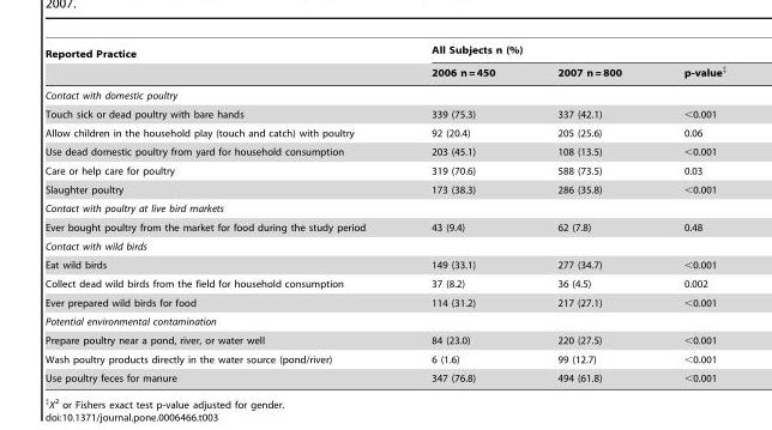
<table><thead><tr><td rowspan="2">Reported Practice</td><td colspan="3">All Subjects n (%)</td></tr><tr><td>2006 n = 450</td><td>2007 n = 800</td><td>p-value‡</td></tr></thead><tbody><tr><td colspan="4">Contact with domestic poultry</td></tr><tr><td>Touch sick or dead poultry with bare hands</td><td>339 (75.3)</td><td>337 (42.1)</td><td>&lt;0.001</td></tr><tr><td>Allow children in the household play (touch and catch) with poultry</td><td>92 (20.4)</td><td>205 (25.6)</td><td>0.06</td></tr><tr><td>Use dead domestic poultry from yard for household consumption</td><td>203 (45.1)</td><td>108 (13.5)</td><td>&lt;0.001</td></tr><tr><td>Care or help care for poultry</td><td>319 (70.6)</td><td>588 (73.5)</td><td>0.03</td></tr><tr><td>Slaughter poultry</td><td>173 (38.3)</td><td>286 (35.8)</td><td>&lt;0.001</td></tr><tr><td colspan="4">Contact with poultry at live bird markets</td></tr><tr><td>Ever bought poultry from the market for food during the study period</td><td>43 (9.4)</td><td>62 (7.8)</td><td>0.48</td></tr><tr><td colspan="4">Contact with wild birds</td></tr><tr><td>Eat wild birds</td><td>149 (33.1)</td><td>277 (34.7)</td><td>&lt;0.001</td></tr><tr><td>Collect dead wild birds from the field for household consumption</td><td>37 (8.2)</td><td>36 (4.5)</td><td>0.002</td></tr><tr><td>Ever prepared wild birds for food</td><td>114 (31.2)</td><td>217 (27.1)</td><td>&lt;0.001</td></tr><tr><td colspan="4">Potential environmental contamination</td></tr><tr><td>Prepare poultry near a pond, river, or water well</td><td>84 (23.0)</td><td>220 (27.5)</td><td>&lt;0.001</td></tr><tr><td>Wash poultry products directly in the water source (pond/river)</td><td>6 (1.6)</td><td>99 (12.7)</td><td>&lt;0.001</td></tr><tr><td>Use poultry feces for manure</td><td>347 (76.8)</td><td>494 (61.8)</td><td>&lt;0.001</td></tr></tbody></table>